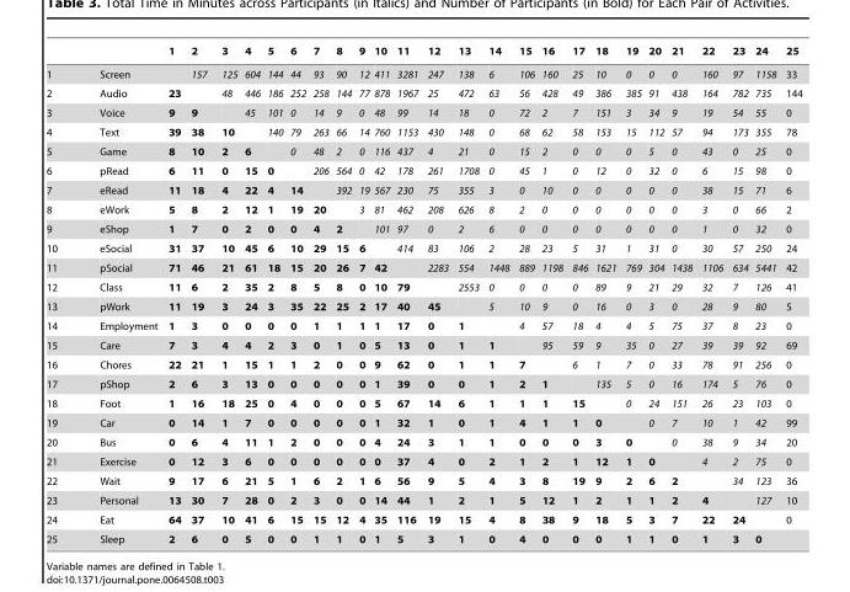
<table><thead><tr><td></td><td></td><td>1</td><td>2</td><td>3</td><td>4</td><td>5</td><td>6</td><td>7</td><td>8</td><td>9</td><td>10</td><td>11</td><td>12</td><td>13</td><td>14</td><td>15</td><td>16</td><td>17</td><td>18</td><td>19</td><td>20</td><td>21</td><td>22</td><td>23</td><td>24</td><td>25</td></tr></thead><tbody><tr><td>1</td><td>Screen</td><td></td><td>157</td><td>125</td><td>604</td><td>144</td><td>44</td><td>93</td><td>90</td><td>12</td><td>411</td><td>3281</td><td>247</td><td>138</td><td>6</td><td>106</td><td>160</td><td>25</td><td>10</td><td>0</td><td>0</td><td>0</td><td>160</td><td>97</td><td>1158</td><td>33</td></tr><tr><td>2</td><td>Audio</td><td>23</td><td></td><td>48</td><td>446</td><td>186</td><td>252</td><td>258</td><td>144</td><td>77</td><td>878</td><td>1967</td><td>25</td><td>472</td><td>63</td><td>56</td><td>428</td><td>49</td><td>386</td><td>385</td><td>91</td><td>438</td><td>164</td><td>782</td><td>735</td><td>144</td></tr><tr><td>3</td><td>Voice</td><td>9</td><td>9</td><td></td><td>45</td><td>101</td><td>0</td><td>14</td><td>9</td><td>0</td><td>48</td><td>99</td><td>14</td><td>18</td><td>0</td><td>72</td><td>2</td><td>7</td><td>151</td><td>3</td><td>34</td><td>9</td><td>19</td><td>54</td><td>55</td><td>0</td></tr><tr><td>4</td><td>Text</td><td>39</td><td>38</td><td>10</td><td></td><td>140</td><td>79</td><td>263</td><td>66</td><td>14</td><td>760</td><td>1153</td><td>430</td><td>148</td><td>0</td><td>68</td><td>62</td><td>58</td><td>153</td><td>15</td><td>112</td><td>57</td><td>94</td><td>173</td><td>355</td><td>78</td></tr><tr><td>5</td><td>Game</td><td>8</td><td>10</td><td>2</td><td>6</td><td></td><td>0</td><td>48</td><td>2</td><td>0</td><td>116</td><td>437</td><td>4</td><td>21</td><td>0</td><td>15</td><td>2</td><td>0</td><td>0</td><td>0</td><td>5</td><td>0</td><td>43</td><td>0</td><td>25</td><td>0</td></tr><tr><td>6</td><td>pRead</td><td>6</td><td>11</td><td>0</td><td>15</td><td>0</td><td></td><td>206</td><td>564</td><td>0</td><td>42</td><td>178</td><td>261</td><td>1708</td><td>0</td><td>45</td><td>1</td><td>0</td><td>12</td><td>0</td><td>32</td><td>0</td><td>6</td><td>15</td><td>98</td><td>0</td></tr><tr><td>7</td><td>eRead</td><td>11</td><td>18</td><td>4</td><td>22</td><td>4</td><td>14</td><td></td><td>392</td><td>19</td><td>567</td><td>230</td><td>75</td><td>355</td><td>3</td><td>0</td><td>10</td><td>0</td><td>0</td><td>0</td><td>0</td><td>0</td><td>38</td><td>15</td><td>71</td><td>6</td></tr><tr><td>8</td><td>eWork</td><td>5</td><td>8</td><td>2</td><td>12</td><td>1</td><td>19</td><td>20</td><td></td><td>3</td><td>81</td><td>462</td><td>208</td><td>626</td><td>8</td><td>2</td><td>0</td><td>0</td><td>0</td><td>0</td><td>0</td><td>0</td><td>3</td><td>0</td><td>66</td><td>2</td></tr><tr><td>9</td><td>eShop</td><td>1</td><td>7</td><td>0</td><td>2</td><td>0</td><td>0</td><td>4</td><td>2</td><td></td><td>101</td><td>97</td><td>0</td><td>2</td><td>6</td><td>0</td><td>0</td><td>0</td><td>0</td><td>0</td><td>0</td><td>0</td><td>1</td><td>0</td><td>32</td><td>0</td></tr><tr><td>10</td><td>eSocial</td><td>31</td><td>37</td><td>10</td><td>45</td><td>6</td><td>10</td><td>29</td><td>15</td><td>6</td><td></td><td>414</td><td>83</td><td>106</td><td>2</td><td>28</td><td>23</td><td>5</td><td>31</td><td>1</td><td>31</td><td>0</td><td>30</td><td>57</td><td>250</td><td>24</td></tr><tr><td>11</td><td>pSocial</td><td>71</td><td>46</td><td>21</td><td>61</td><td>18</td><td>15</td><td>20</td><td>26</td><td>7</td><td>42</td><td></td><td>2283</td><td>554</td><td>1448</td><td>889</td><td>1198</td><td>846</td><td>1621</td><td>769</td><td>304</td><td>1438</td><td>1106</td><td>634</td><td>5441</td><td>42</td></tr><tr><td>12</td><td>Class</td><td>11</td><td>6</td><td>2</td><td>35</td><td>2</td><td>8</td><td>5</td><td>8</td><td>0</td><td>10</td><td>79</td><td></td><td>2553</td><td>0</td><td>0</td><td>0</td><td>0</td><td>89</td><td>9</td><td>21</td><td>29</td><td>32</td><td>7</td><td>126</td><td>41</td></tr><tr><td>13</td><td>pWork</td><td>11</td><td>19</td><td>3</td><td>24</td><td>3</td><td>35</td><td>22</td><td>25</td><td>2</td><td>17</td><td>40</td><td>45</td><td></td><td>5</td><td>10</td><td>9</td><td>0</td><td>16</td><td>0</td><td>3</td><td>0</td><td>28</td><td>9</td><td>80</td><td>5</td></tr><tr><td>14</td><td>Employment</td><td>1</td><td>3</td><td>0</td><td>0</td><td>0</td><td>0</td><td>1</td><td>1</td><td>1</td><td>1</td><td>17</td><td>0</td><td>1</td><td></td><td>4</td><td>57</td><td>18</td><td>4</td><td>4</td><td>5</td><td>75</td><td>37</td><td>8</td><td>23</td><td>0</td></tr><tr><td>15</td><td>Care</td><td>7</td><td>3</td><td>4</td><td>4</td><td>2</td><td>3</td><td>0</td><td>1</td><td>0</td><td>5</td><td>13</td><td>0</td><td>1</td><td>1</td><td></td><td>95</td><td>59</td><td>9</td><td>35</td><td>0</td><td>27</td><td>39</td><td>39</td><td>92</td><td>69</td></tr><tr><td>16</td><td>Chores</td><td>22</td><td>21</td><td>1</td><td>15</td><td>1</td><td>1</td><td>2</td><td>0</td><td>0</td><td>9</td><td>62</td><td>0</td><td>1</td><td>1</td><td>7</td><td></td><td>6</td><td>1</td><td>7</td><td>0</td><td>33</td><td>78</td><td>91</td><td>256</td><td>0</td></tr><tr><td>17</td><td>pShop</td><td>2</td><td>6</td><td>3</td><td>13</td><td>0</td><td>0</td><td>0</td><td>0</td><td>0</td><td>1</td><td>39</td><td>0</td><td>0</td><td>1</td><td>2</td><td>1</td><td></td><td>135</td><td>5</td><td>0</td><td>16</td><td>174</td><td>5</td><td>76</td><td>0</td></tr><tr><td>18</td><td>Foot</td><td>1</td><td>16</td><td>18</td><td>25</td><td>0</td><td>4</td><td>0</td><td>0</td><td>0</td><td>5</td><td>67</td><td>14</td><td>6</td><td>1</td><td>1</td><td>1</td><td>15</td><td></td><td>0</td><td>24</td><td>151</td><td>26</td><td>23</td><td>103</td><td>0</td></tr><tr><td>19</td><td>Car</td><td>0</td><td>14</td><td>1</td><td>7</td><td>0</td><td>0</td><td>0</td><td>0</td><td>0</td><td>1</td><td>32</td><td>1</td><td>0</td><td>1</td><td>4</td><td>1</td><td>1</td><td>0</td><td></td><td>0</td><td>7</td><td>10</td><td>1</td><td>42</td><td>99</td></tr><tr><td>20</td><td>Bus</td><td>0</td><td>6</td><td>4</td><td>11</td><td>1</td><td>2</td><td>0</td><td>0</td><td>0</td><td>4</td><td>24</td><td>3</td><td>1</td><td>1</td><td>0</td><td>0</td><td>0</td><td>3</td><td>0</td><td></td><td>0</td><td>38</td><td>9</td><td>34</td><td>20</td></tr><tr><td>21</td><td>Exercise</td><td>0</td><td>12</td><td>3</td><td>6</td><td>0</td><td>0</td><td>0</td><td>0</td><td>0</td><td>0</td><td>37</td><td>4</td><td>0</td><td>2</td><td>1</td><td>2</td><td>1</td><td>12</td><td>1</td><td>0</td><td></td><td>4</td><td>2</td><td>75</td><td>0</td></tr><tr><td>22</td><td>Wait</td><td>9</td><td>17</td><td>6</td><td>21</td><td>5</td><td>1</td><td>6</td><td>2</td><td>1</td><td>6</td><td>56</td><td>9</td><td>5</td><td>4</td><td>3</td><td>8</td><td>19</td><td>9</td><td>2</td><td>6</td><td>2</td><td></td><td>34</td><td>123</td><td>36</td></tr><tr><td>23</td><td>Personal</td><td>13</td><td>30</td><td>7</td><td>28</td><td>0</td><td>2</td><td>3</td><td>0</td><td>0</td><td>14</td><td>44</td><td>1</td><td>2</td><td>1</td><td>5</td><td>12</td><td>1</td><td>2</td><td>1</td><td>1</td><td>2</td><td>4</td><td></td><td>127</td><td>10</td></tr><tr><td>24</td><td>Eat</td><td>64</td><td>37</td><td>10</td><td>41</td><td>6</td><td>15</td><td>15</td><td>12</td><td>4</td><td>35</td><td>116</td><td>19</td><td>15</td><td>4</td><td>8</td><td>38</td><td>9</td><td>18</td><td>5</td><td>3</td><td>7</td><td>22</td><td>24</td><td></td><td>0</td></tr><tr><td>25</td><td>Sleep</td><td>2</td><td>6</td><td>0</td><td>5</td><td>0</td><td>0</td><td>1</td><td>1</td><td>0</td><td>1</td><td>5</td><td>3</td><td>1</td><td>0</td><td>4</td><td>0</td><td>0</td><td>0</td><td>1</td><td>1</td><td>0</td><td>1</td><td>3</td><td>0</td><td></td></tr></tbody></table>